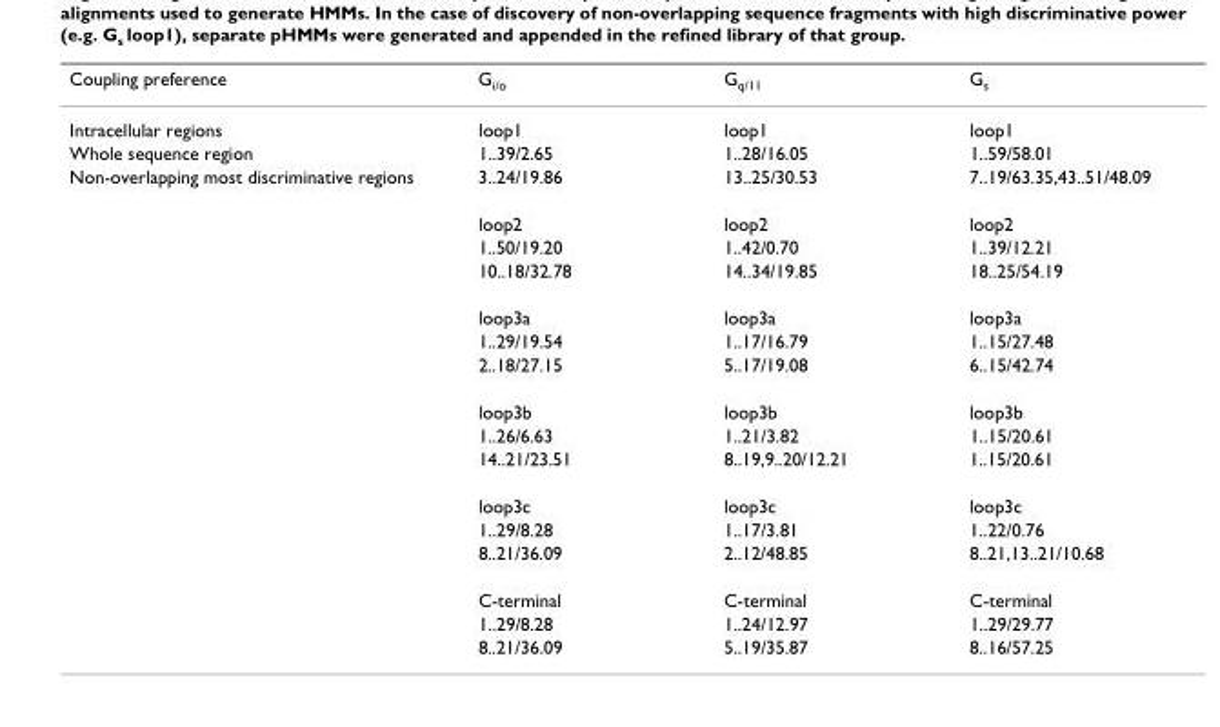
<table><thead><tr><td>Coupling preference</td><td>Gi/o</td><td>Gq/11</td><td>Gs</td></tr></thead><tbody><tr><td>Intracellular regions</td><td>loop1</td><td>loop1</td><td>loop1</td></tr><tr><td>Whole sequence region</td><td>1..39/2.65</td><td>1..28/16.05</td><td>1..59/58.01</td></tr><tr><td rowspan="16">Non-overlapping most discriminative regions</td><td>3..24/19.86</td><td>13..25/30.53</td><td>7..19/63.35,43..51/48.09</td></tr><tr><td>loop2</td><td>loop2</td><td>loop2</td></tr><tr><td>1..50/19.20</td><td>1..42/0.70</td><td>1..39/12.21</td></tr><tr><td>10..18/32.78</td><td>14..34/19.85</td><td>18..25/54.19</td></tr><tr><td>loop3a</td><td>loop3a</td><td>loop3a</td></tr><tr><td>1..29/19.54</td><td>1..17/16.79</td><td>1..15/27.48</td></tr><tr><td>2..18/27.15</td><td>5..17/19.08</td><td>6..15/42.74</td></tr><tr><td>loop3b</td><td>loop3b</td><td>loop3b</td></tr><tr><td>1..26/6.63</td><td>1..21/3.82</td><td>1..15/20.61</td></tr><tr><td>14..21/23.51</td><td>8..19,9..20/12.21</td><td>1..15/20.61</td></tr><tr><td>loop3c</td><td>loop3c</td><td>loop3c</td></tr><tr><td>1..29/8.28</td><td>1..17/3.81</td><td>1..22/0.76</td></tr><tr><td>8..21/36.09</td><td>2..12/48.85</td><td>8..21,13..21/10.68</td></tr><tr><td>C-terminal</td><td>C-terminal</td><td>C-terminal</td></tr><tr><td>1..29/8.28</td><td>1..24/12.97</td><td>1..29/29.77</td></tr><tr><td>8..21/36.09</td><td>5..19/35.87</td><td>8..16/57.25</td></tr></tbody></table>